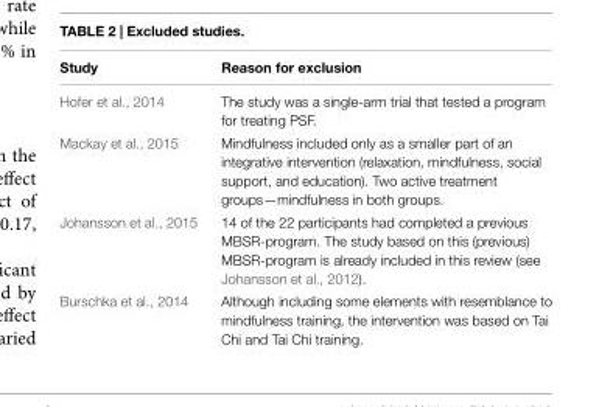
<table><thead><tr><td>Study</td><td>Reason for exclusion</td></tr></thead><tbody><tr><td>Hofer et al., 2014</td><td>The study was a single-arm trial that tested a program for treating PSF.</td></tr><tr><td>Mackay et al., 2015</td><td>Mindfulness included only as a smaller part of an integrative intervention (relaxation, mindfulness, social support, and education). Two active treatment groups—mindfulness in both groups.</td></tr><tr><td>Johansson et al., 2015</td><td>14 of the 22 participants had completed a previous MBSR-program. The study based on this (previous) MBSR-program is already included in this review (see Johansson et al., 2012).</td></tr><tr><td>Burschka et al., 2014</td><td>Although including some elements with resemblance to mindfulness training, the intervention was based on Tai Chi and Tai Chi training.</td></tr></tbody></table>